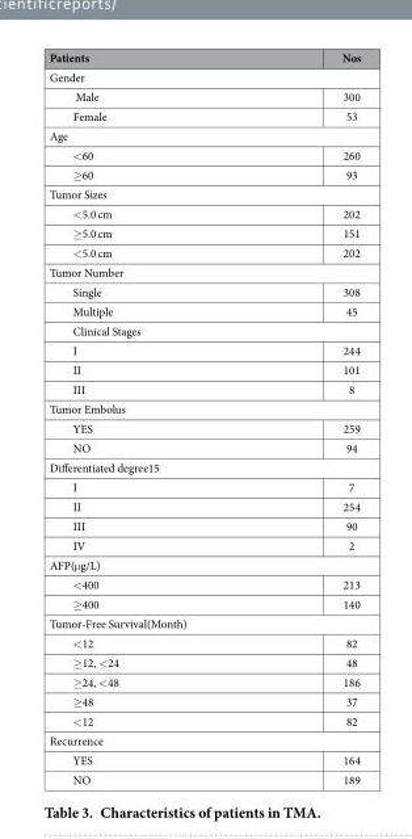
<table><thead><tr><td>Patients</td><td>Nos</td></tr></thead><tbody><tr><td colspan="2">Gender</td></tr><tr><td>Male</td><td>300</td></tr><tr><td>Female</td><td>53</td></tr><tr><td colspan="2">Age</td></tr><tr><td>&lt; 60</td><td>260</td></tr><tr><td>≥ 60</td><td>93</td></tr><tr><td colspan="2">Tumor Sizes</td></tr><tr><td>&lt; 5.0 cm</td><td>202</td></tr><tr><td>≥ 5.0 cm</td><td>151</td></tr><tr><td>&lt; 5.0 cm</td><td>202</td></tr><tr><td colspan="2">Tumor Number</td></tr><tr><td>Single</td><td>308</td></tr><tr><td>Multiple</td><td>45</td></tr><tr><td colspan="2">Clinical Stages</td></tr><tr><td>I</td><td>244</td></tr><tr><td>II</td><td>101</td></tr><tr><td>III</td><td>8</td></tr><tr><td colspan="2">Tumor Embolus</td></tr><tr><td>YES</td><td>259</td></tr><tr><td>NO</td><td>94</td></tr><tr><td colspan="2">Differentiated degree15</td></tr><tr><td>I</td><td>7</td></tr><tr><td>II</td><td>254</td></tr><tr><td>III</td><td>90</td></tr><tr><td>IV</td><td>2</td></tr><tr><td colspan="2">AFP(μ g/L)</td></tr><tr><td>&lt; 400</td><td>213</td></tr><tr><td>≥ 400</td><td>140</td></tr><tr><td colspan="2">Tumor-Free Survival(Month)</td></tr><tr><td>&lt; 12</td><td>82</td></tr><tr><td>≥ 12, &lt; 24</td><td>48</td></tr><tr><td>≥ 24, &lt; 48</td><td>186</td></tr><tr><td>≥ 48</td><td>37</td></tr><tr><td>&lt; 12</td><td>82</td></tr><tr><td colspan="2">Recurrence</td></tr><tr><td>YES</td><td>164</td></tr><tr><td>NO</td><td>189</td></tr></tbody></table>